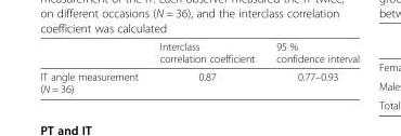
<table><thead><tr><td></td><td>Interclass correlation coefficient</td><td>95 % confidence interval</td></tr></thead><tbody><tr><td>IT angle measurement (N = 36)</td><td>0.87</td><td>0.77–0.93</td></tr></tbody></table>